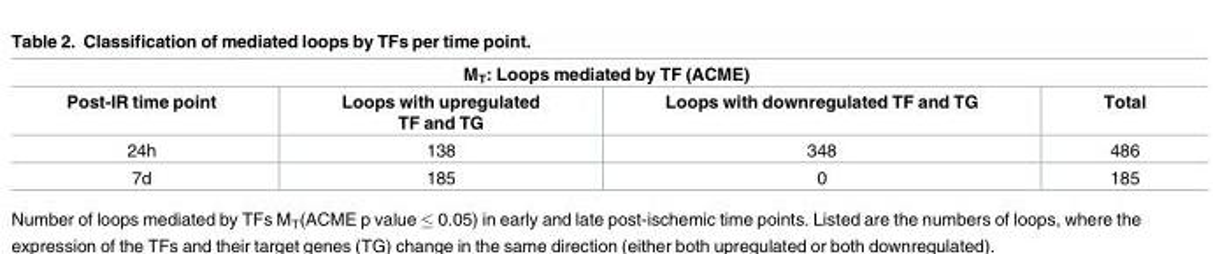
<table><thead><tr><td colspan="4">M<sub>T</sub>: Loops mediated by TF (ACME)</td></tr><tr><td>Post-IR time point</td><td>Loops with upregulated TF and TG</td><td>Loops with downregulated TF and TG</td><td>Total</td></tr></thead><tbody><tr><td>24h</td><td>138</td><td>348</td><td>486</td></tr><tr><td>7d</td><td>185</td><td>0</td><td>185</td></tr></tbody></table>